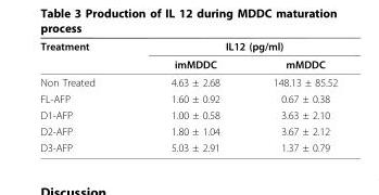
<table><thead><tr><td rowspan="2">Treatment</td><td colspan="2">IL12 (pg/ml)</td></tr><tr><td>imMDDC</td><td>mMDDC</td></tr></thead><tbody><tr><td>Non Treated</td><td>4.63 ± 2.68</td><td>148.13 ± 85.52</td></tr><tr><td>FL-AFP</td><td>1.60 ± 0.92</td><td>0.67 ± 0.38</td></tr><tr><td>D1-AFP</td><td>1.00 ± 0.58</td><td>3.63 ± 2.10</td></tr><tr><td>D2-AFP</td><td>1.80 ± 1.04</td><td>3.67 ± 2.12</td></tr><tr><td>D3-AFP</td><td>5.03 ± 2.91</td><td>1.37 ± 0.79</td></tr></tbody></table>